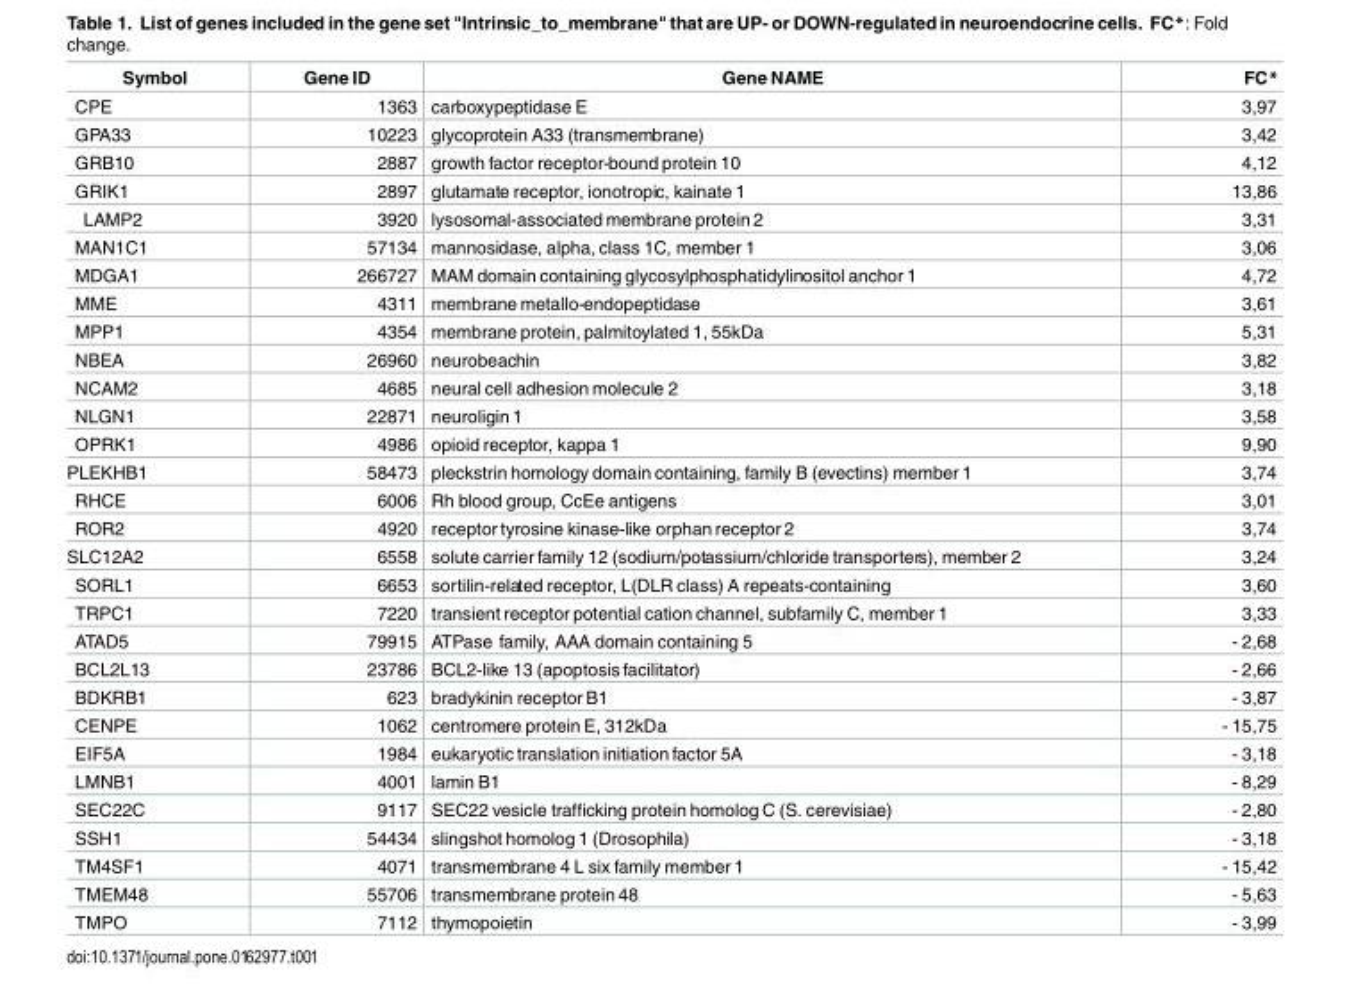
<table><thead><tr><td>Symbol</td><td>Gene ID</td><td>Gene NAME</td><td>FC*</td></tr></thead><tbody><tr><td>CPE</td><td>1363</td><td>carboxypeptidase E</td><td>3,97</td></tr><tr><td>GPA33</td><td>10223</td><td>glycoprotein A33 (transmembrane)</td><td>3,42</td></tr><tr><td>GRB10</td><td>2887</td><td>growth factor receptor-bound protein 10</td><td>4,12</td></tr><tr><td>GRIK1</td><td>2897</td><td>glutamate receptor, ionotropic, kainate 1</td><td>13,86</td></tr><tr><td>LAMP2</td><td>3920</td><td>lysosomal-associated membrane protein 2</td><td>3,31</td></tr><tr><td>MAN1C1</td><td>57134</td><td>mannosidase, alpha, class 1C, member 1</td><td>3,06</td></tr><tr><td>MDGA1</td><td>266727</td><td>MAM domain containing glycosylphosphatidylinositol anchor 1</td><td>4,72</td></tr><tr><td>MME</td><td>4311</td><td>membrane metallo-endopeptidase</td><td>3,61</td></tr><tr><td>MPP1</td><td>4354</td><td>membrane protein, palmitoylated 1, 55kDa</td><td>5,31</td></tr><tr><td>NBEA</td><td>26960</td><td>neurobeachin</td><td>3,82</td></tr><tr><td>NCAM2</td><td>4685</td><td>neural cell adhesion molecule 2</td><td>3,18</td></tr><tr><td>NLGN1</td><td>22871</td><td>neuroligin 1</td><td>3,58</td></tr><tr><td>OPRK1</td><td>4986</td><td>opioid receptor, kappa 1</td><td>9,90</td></tr><tr><td>PLEKHB1</td><td>58473</td><td>pleckstrin homology domain containing, family B (evectins) member 1</td><td>3,74</td></tr><tr><td>RHCE</td><td>6006</td><td>Rh blood group, CcEe antigens</td><td>3,01</td></tr><tr><td>ROR2</td><td>4920</td><td>receptor tyrosine kinase-like orphan receptor 2</td><td>3,74</td></tr><tr><td>SLC12A2</td><td>6558</td><td>solute carrier family 12 (sodium/potassium/chloride transporters), member 2</td><td>3,24</td></tr><tr><td>SORL1</td><td>6653</td><td>sortilin-related receptor, L(DLR class) A repeats-containing</td><td>3,60</td></tr><tr><td>TRPC1</td><td>7220</td><td>transient receptor potential cation channel, subfamily C, member 1</td><td>3,33</td></tr><tr><td>ATAD5</td><td>79915</td><td>ATPase family, AAA domain containing 5</td><td>- 2,68</td></tr><tr><td>BCL2L13</td><td>23786</td><td>BCL2-like 13 (apoptosis facilitator)</td><td>- 2,66</td></tr><tr><td>BDKRB1</td><td>623</td><td>bradykinin receptor B1</td><td>- 3,87</td></tr><tr><td>CENPE</td><td>1062</td><td>centromere protein E, 312kDa</td><td>- 15,75</td></tr><tr><td>EIF5A</td><td>1984</td><td>eukaryotic translation initiation factor 5A</td><td>- 3,18</td></tr><tr><td>LMNB1</td><td>4001</td><td>lamin B1</td><td>- 8,29</td></tr><tr><td>SEC22C</td><td>9117</td><td>SEC22 vesicle trafficking protein homolog C (S. cerevisiae)</td><td>- 2,80</td></tr><tr><td>SSH1</td><td>54434</td><td>slingshot homolog 1 (Drosophila)</td><td>- 3,18</td></tr><tr><td>TM4SF1</td><td>4071</td><td>transmembrane 4 L six family member 1</td><td>- 15,42</td></tr><tr><td>TMEM48</td><td>55706</td><td>transmembrane protein 48</td><td>- 5,63</td></tr><tr><td>TMPO</td><td>7112</td><td>thymopoietin</td><td>- 3,99</td></tr></tbody></table>